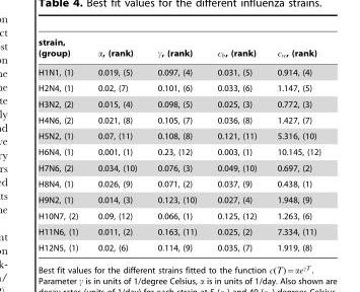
<table><thead><tr><td>strain, (group)</td><td>a, (rank)</td><td>c, (rank)</td><td>cb, (rank)</td><td>cw, (rank)</td></tr></thead><tbody><tr><td>H1N1, (1)</td><td>0.019, (5)</td><td>0.097, (4)</td><td>0.031, (5)</td><td>0.914, (4)</td></tr><tr><td>H2N4, (1)</td><td>0.02, (7)</td><td>0.101, (6)</td><td>0.033, (6)</td><td>1.147, (5)</td></tr><tr><td>H3N2, (2)</td><td>0.015, (4)</td><td>0.098, (5)</td><td>0.025, (3)</td><td>0.772, (3)</td></tr><tr><td>H4N6, (2)</td><td>0.021, (8)</td><td>0.105, (7)</td><td>0.036, (8)</td><td>1.427, (7)</td></tr><tr><td>H5N2, (1)</td><td>0.07, (11)</td><td>0.108, (8)</td><td>0.121, (11)</td><td>5.316, (10)</td></tr><tr><td>H6N4, (1)</td><td>0.001, (1)</td><td>0.23, (12)</td><td>0.003, (1)</td><td>10.145, (12)</td></tr><tr><td>H7N6, (2)</td><td>0.034, (10)</td><td>0.076, (3)</td><td>0.049, (10)</td><td>0.697, (2)</td></tr><tr><td>H8N4, (1)</td><td>0.026, (9)</td><td>0.071, (2)</td><td>0.037, (9)</td><td>0.438, (1)</td></tr><tr><td>H9N2, (1)</td><td>0.014, (3)</td><td>0.123, (10)</td><td>0.027, (4)</td><td>1.948, (9)</td></tr><tr><td>H10N7, (2)</td><td>0.09, (12)</td><td>0.066, (1)</td><td>0.125, (12)</td><td>1.263, (6)</td></tr><tr><td>H11N6, (1)</td><td>0.011, (2)</td><td>0.163, (11)</td><td>0.025, (2)</td><td>7.334, (11)</td></tr><tr><td>H12N5, (1)</td><td>0.02, (6)</td><td>0.114, (9)</td><td>0.035, (7)</td><td>1.919, (8)</td></tr></tbody></table>